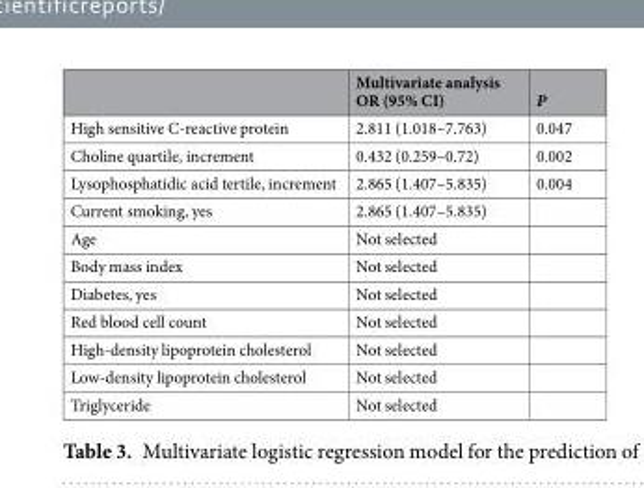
<table><thead><tr><td></td><td>Multivariate analysis OR (95% CI)</td><td>P</td></tr></thead><tbody><tr><td>High sensitive C-reactive protein</td><td>2.811 (1.018–7.763)</td><td>0.047</td></tr><tr><td>Choline quartile, increment</td><td>0.432 (0.259–0.72)</td><td>0.002</td></tr><tr><td>Lysophosphatidic acid tertile, increment</td><td>2.865 (1.407–5.835)</td><td>0.004</td></tr><tr><td>Current smoking, yes</td><td>2.865 (1.407–5.835)</td><td></td></tr><tr><td>Age</td><td>Not selected</td><td></td></tr><tr><td>Body mass index</td><td>Not selected</td><td></td></tr><tr><td>Diabetes, yes</td><td>Not selected</td><td></td></tr><tr><td>Red blood cell count</td><td>Not selected</td><td></td></tr><tr><td>High-density lipoprotein cholesterol</td><td>Not selected</td><td></td></tr><tr><td>Low-density lipoprotein cholesterol</td><td>Not selected</td><td></td></tr><tr><td>Triglyceride</td><td>Not selected</td><td></td></tr></tbody></table>